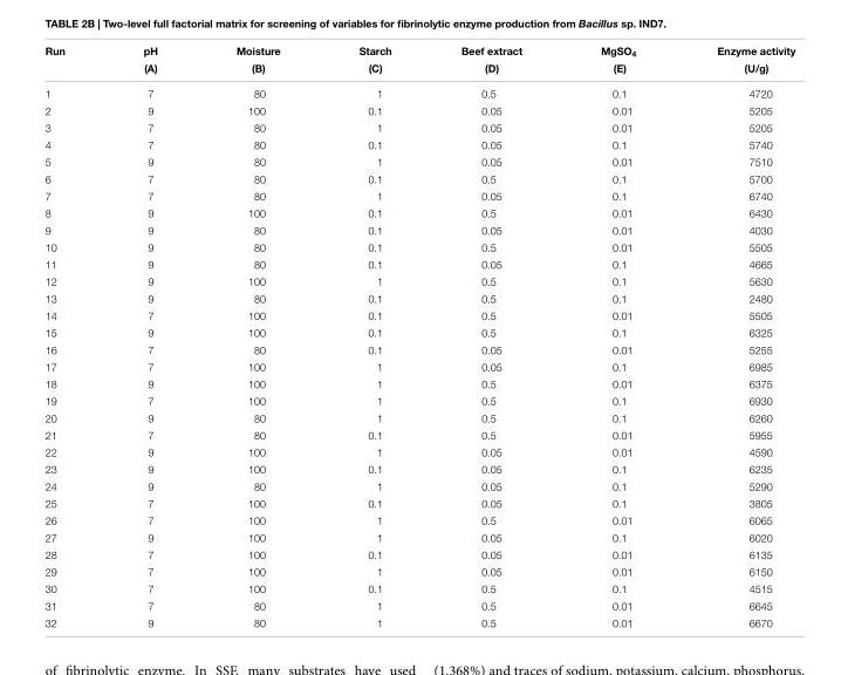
<table><thead><tr><td rowspan="2">Run</td><td rowspan="2">pH (A)</td><td rowspan="2">Moisture (B)</td><td rowspan="2">Starch (C)</td><td rowspan="2">Beef extract (D)</td><td rowspan="2">MgSO<sub>4</sub> (E)</td><td rowspan="2">Enzyme activity (U/g)</td></tr><tr></tr></thead><tbody><tr><td>1</td><td>7</td><td>80</td><td>1</td><td>0.5</td><td>0.1</td><td>4720</td></tr><tr><td>2</td><td>9</td><td>100</td><td>0.1</td><td>0.05</td><td>0.01</td><td>5205</td></tr><tr><td>3</td><td>7</td><td>80</td><td>1</td><td>0.05</td><td>0.01</td><td>5205</td></tr><tr><td>4</td><td>7</td><td>80</td><td>0.1</td><td>0.05</td><td>0.1</td><td>5740</td></tr><tr><td>5</td><td>9</td><td>80</td><td>1</td><td>0.05</td><td>0.01</td><td>7510</td></tr><tr><td>6</td><td>7</td><td>80</td><td>0.1</td><td>0.5</td><td>0.1</td><td>5700</td></tr><tr><td>7</td><td>7</td><td>80</td><td>1</td><td>0.05</td><td>0.1</td><td>6740</td></tr><tr><td>8</td><td>9</td><td>100</td><td>0.1</td><td>0.5</td><td>0.01</td><td>6430</td></tr><tr><td>9</td><td>9</td><td>80</td><td>0.1</td><td>0.05</td><td>0.01</td><td>4030</td></tr><tr><td>10</td><td>9</td><td>80</td><td>0.1</td><td>0.5</td><td>0.01</td><td>5505</td></tr><tr><td>11</td><td>9</td><td>80</td><td>0.1</td><td>0.05</td><td>0.1</td><td>4665</td></tr><tr><td>12</td><td>9</td><td>100</td><td>1</td><td>0.5</td><td>0.1</td><td>5630</td></tr><tr><td>13</td><td>9</td><td>80</td><td>0.1</td><td>0.5</td><td>0.1</td><td>2480</td></tr><tr><td>14</td><td>7</td><td>100</td><td>0.1</td><td>0.5</td><td>0.01</td><td>5505</td></tr><tr><td>15</td><td>9</td><td>100</td><td>0.1</td><td>0.5</td><td>0.1</td><td>6325</td></tr><tr><td>16</td><td>7</td><td>80</td><td>0.1</td><td>0.05</td><td>0.01</td><td>5255</td></tr><tr><td>17</td><td>7</td><td>100</td><td>1</td><td>0.05</td><td>0.1</td><td>6985</td></tr><tr><td>18</td><td>9</td><td>100</td><td>1</td><td>0.5</td><td>0.01</td><td>6375</td></tr><tr><td>19</td><td>7</td><td>100</td><td>1</td><td>0.5</td><td>0.1</td><td>6930</td></tr><tr><td>20</td><td>9</td><td>80</td><td>1</td><td>0.5</td><td>0.1</td><td>6260</td></tr><tr><td>21</td><td>7</td><td>80</td><td>0.1</td><td>0.5</td><td>0.01</td><td>5955</td></tr><tr><td>22</td><td>9</td><td>100</td><td>1</td><td>0.05</td><td>0.01</td><td>4590</td></tr><tr><td>23</td><td>9</td><td>100</td><td>0.1</td><td>0.05</td><td>0.1</td><td>6235</td></tr><tr><td>24</td><td>9</td><td>80</td><td>1</td><td>0.05</td><td>0.1</td><td>5290</td></tr><tr><td>25</td><td>7</td><td>100</td><td>0.1</td><td>0.05</td><td>0.1</td><td>3805</td></tr><tr><td>26</td><td>7</td><td>100</td><td>1</td><td>0.5</td><td>0.01</td><td>6065</td></tr><tr><td>27</td><td>9</td><td>100</td><td>1</td><td>0.05</td><td>0.1</td><td>6020</td></tr><tr><td>28</td><td>7</td><td>100</td><td>0.1</td><td>0.05</td><td>0.01</td><td>6135</td></tr><tr><td>29</td><td>7</td><td>100</td><td>1</td><td>0.05</td><td>0.01</td><td>6150</td></tr><tr><td>30</td><td>7</td><td>100</td><td>0.1</td><td>0.5</td><td>0.1</td><td>4515</td></tr><tr><td>31</td><td>7</td><td>80</td><td>1</td><td>0.5</td><td>0.01</td><td>6645</td></tr><tr><td>32</td><td>9</td><td>80</td><td>1</td><td>0.5</td><td>0.01</td><td>6670</td></tr></tbody></table>